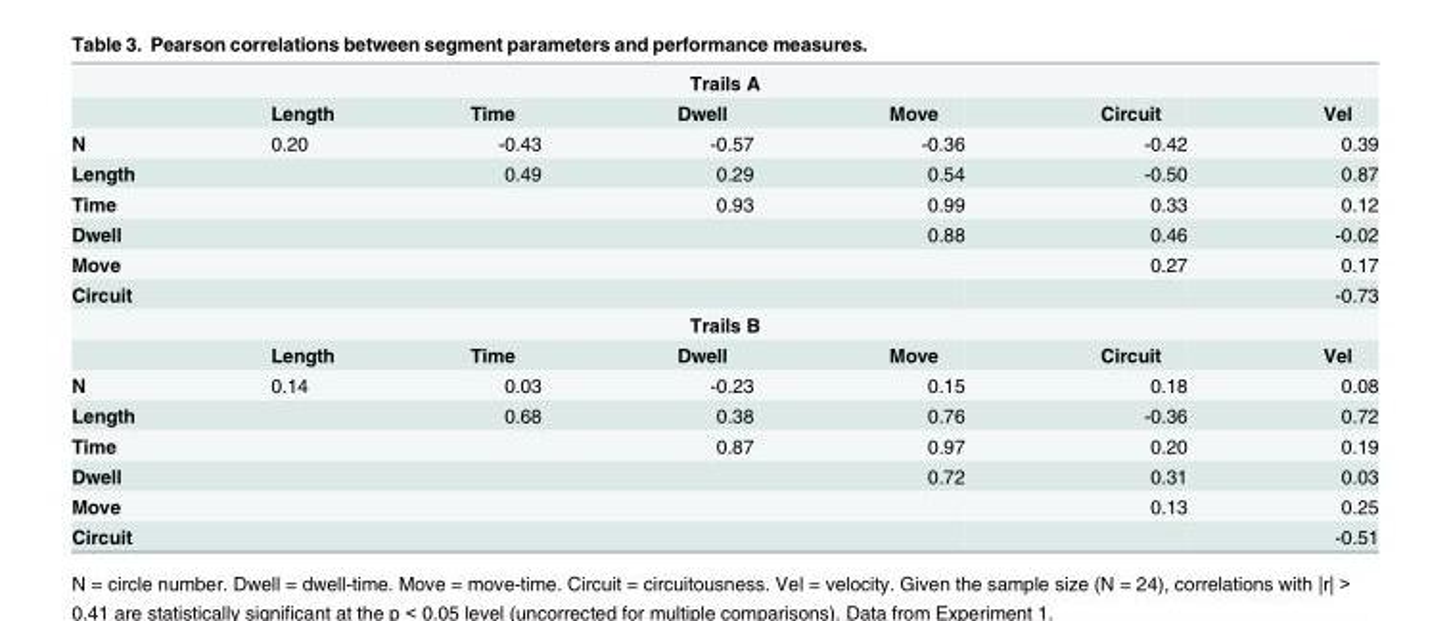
<table><tbody><tr><td colspan="7">Trails A</td></tr><tr><td></td><td>Length</td><td>Time</td><td>Dwell</td><td>Move</td><td>Circuit</td><td>Vel</td></tr><tr><td>N</td><td>0.20</td><td>-0.43</td><td>-0.57</td><td>-0.36</td><td>-0.42</td><td>0.39</td></tr><tr><td>Length</td><td></td><td>0.49</td><td>0.29</td><td>0.54</td><td>-0.50</td><td>0.87</td></tr><tr><td>Time</td><td></td><td></td><td>0.93</td><td>0.99</td><td>0.33</td><td>0.12</td></tr><tr><td>Dwell</td><td></td><td></td><td></td><td>0.88</td><td>0.46</td><td>-0.02</td></tr><tr><td>Move</td><td></td><td></td><td></td><td></td><td>0.27</td><td>0.17</td></tr><tr><td>Circuit</td><td></td><td></td><td></td><td></td><td></td><td>-0.73</td></tr><tr><td colspan="7">Trails B</td></tr><tr><td></td><td>Length</td><td>Time</td><td>Dwell</td><td>Move</td><td>Circuit</td><td>Vel</td></tr><tr><td>N</td><td>0.14</td><td>0.03</td><td>-0.23</td><td>0.15</td><td>0.18</td><td>0.08</td></tr><tr><td>Length</td><td></td><td>0.68</td><td>0.38</td><td>0.76</td><td>-0.36</td><td>0.72</td></tr><tr><td>Time</td><td></td><td></td><td>0.87</td><td>0.97</td><td>0.20</td><td>0.19</td></tr><tr><td>Dwell</td><td></td><td></td><td></td><td>0.72</td><td>0.31</td><td>0.03</td></tr><tr><td>Move</td><td></td><td></td><td></td><td></td><td>0.13</td><td>0.25</td></tr><tr><td>Circuit</td><td></td><td></td><td></td><td></td><td></td><td>-0.51</td></tr></tbody></table>